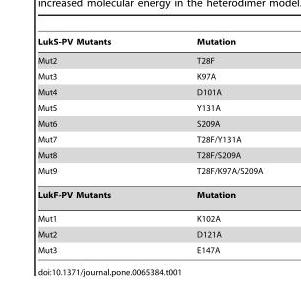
<table><thead><tr><td>LukS-PV Mutants</td><td>Mutation</td></tr></thead><tbody><tr><td>Mut2</td><td>T28F</td></tr><tr><td>Mut3</td><td>K97A</td></tr><tr><td>Mut4</td><td>D101A</td></tr><tr><td>Mut5</td><td>Y131A</td></tr><tr><td>Mut6</td><td>S209A</td></tr><tr><td>Mut7</td><td>T28F/Y131A</td></tr><tr><td>Mut8</td><td>T28F/S209A</td></tr><tr><td>Mut9</td><td>T28F/K97A/S209A</td></tr><tr><td>LukF-PV Mutants</td><td>Mutation</td></tr><tr><td>Mut1</td><td>K102A</td></tr><tr><td>Mut2</td><td>D121A</td></tr><tr><td>Mut3</td><td>E147A</td></tr></tbody></table>